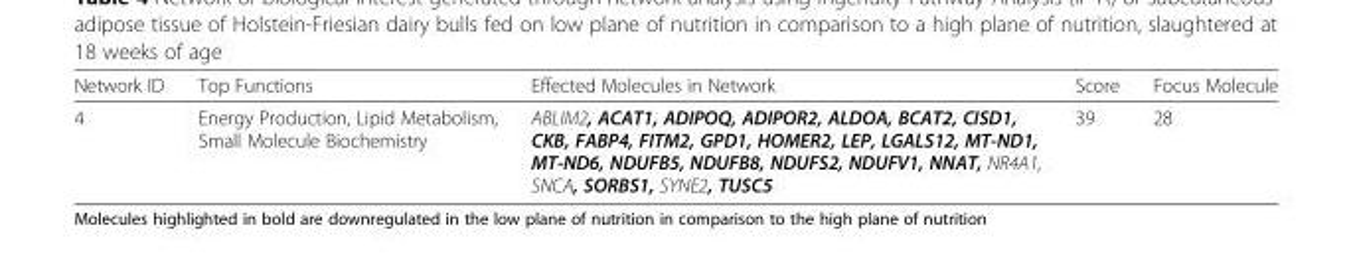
<table><thead><tr><td>Network ID</td><td>Top Functions</td><td>Effected Molecules in Network</td><td>Score</td><td>Focus Molecule</td></tr></thead><tbody><tr><td>4</td><td>Energy Production, Lipid Metabolism, Small Molecule Biochemistry</td><td>ABLIM2, ACAT1, ADIPOQ, ADIPOR2, ALDOA, BCAT2, CISD1, CKB, FABP4, FITM2, GPD1, HOMER2, LEP, LGALS12, MT-ND1, MT-ND6, NDUFB5, NDUFB8, NDUFS2, NDUFV1, NNAT, NR4A1, SNCA, SORBS1, SYNE2, TUSC5</td><td>39</td><td>28</td></tr></tbody></table>